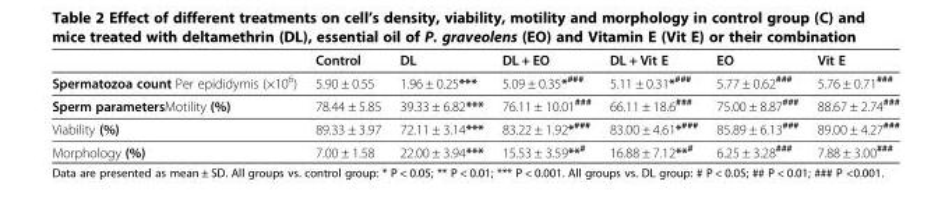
<table><thead><tr><td></td><td>Control</td><td>DL</td><td>DL + EO</td><td>DL + Vit E</td><td>EO</td><td>Vit E</td></tr></thead><tbody><tr><td>Spermatozoa count Per epididymis (×10<sup>6</sup>)</td><td>5.90 ± 0.55</td><td>1.96 ± 0.25***</td><td>5.09 ± 0.35*<sup>###</sup></td><td>5.11 ± 0.31*<sup>###</sup></td><td>5.77 ± 0.62<sup>###</sup></td><td>5.76 ± 0.71<sup>###</sup></td></tr><tr><td>Sperm parametersMotility (%)</td><td>78.44 ± 5.85</td><td>39.33 ± 6.82***</td><td>76.11 ± 10.01<sup>###</sup></td><td>66.11 ± 18.6<sup>###</sup></td><td>75.00 ± 8.87<sup>###</sup></td><td>88.67 ± 2.74<sup>###</sup></td></tr><tr><td>Viability (%)</td><td>89.33 ± 3.97</td><td>72.11 ± 3.14***</td><td>83.22 ± 1.92*<sup>###</sup></td><td>83.00 ± 4.61*<sup>###</sup></td><td>85.89 ± 6.13<sup>###</sup></td><td>89.00 ± 4.27<sup>###</sup></td></tr><tr><td>Morphology (%)</td><td>7.00 ± 1.58</td><td>22.00 ± 3.94***</td><td>15.53 ± 3.59**<sup>#</sup></td><td>16.88 ± 7.12**<sup>#</sup></td><td>6.25 ± 3.28<sup>###</sup></td><td>7.88 ± 3.00<sup>###</sup></td></tr></tbody></table>